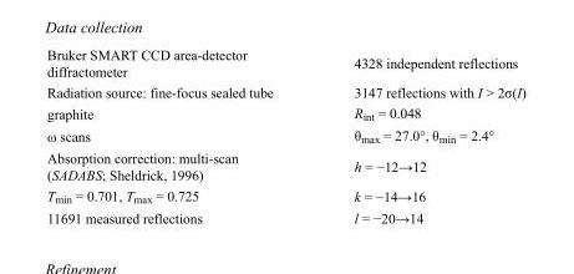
<table><tbody><tr><td>Bruker SMART CCD area-detector diffractometer</td><td>4328 independent reflections</td></tr><tr><td>Radiation source: fine-focus sealed tube</td><td>3147 reflections with I &gt; 2σ(I)</td></tr><tr><td>graphite</td><td>R<sub>int</sub> = 0.048</td></tr><tr><td>ω scans</td><td>θ<sub>max</sub> = 27.0°, θ<sub>min</sub> = 2.4°</td></tr><tr><td>Absorption correction: multi-scan (SADABS; Sheldrick, 1996)</td><td>h = −12→12</td></tr><tr><td>T<sub>min</sub> = 0.701, T<sub>max</sub> = 0.725</td><td>k = −14→16</td></tr><tr><td>11691 measured reflections</td><td>l = −20→14</td></tr></tbody></table>